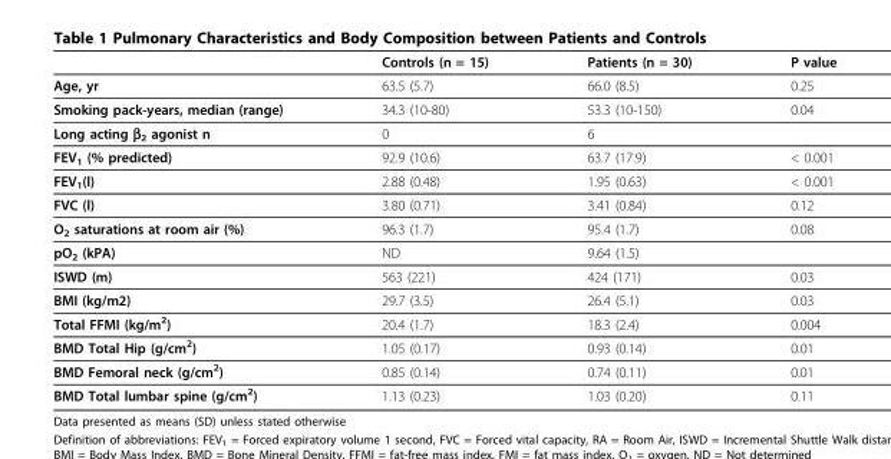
<table><thead><tr><td></td><td>Controls (n = 15)</td><td>Patients (n = 30)</td><td>P value</td></tr></thead><tbody><tr><td>Age, yr</td><td>63.5 (5.7)</td><td>66.0 (8.5)</td><td>0.25</td></tr><tr><td>Smoking pack-years, median (range)</td><td>34.3 (10-80)</td><td>53.3 (10-150)</td><td>0.04</td></tr><tr><td>Long acting β<sub>2</sub> agonist n</td><td>0</td><td>6</td><td></td></tr><tr><td>FEV<sub>1</sub> (% predicted)</td><td>92.9 (10.6)</td><td>63.7 (17.9)</td><td>&lt; 0.001</td></tr><tr><td>FEV<sub>1</sub>(l)</td><td>2.88 (0.48)</td><td>1.95 (0.63)</td><td>&lt; 0.001</td></tr><tr><td>FVC (l)</td><td>3.80 (0.71)</td><td>3.41 (0.84)</td><td>0.12</td></tr><tr><td>O<sub>2</sub> saturations at room air (%)</td><td>96.3 (1.7)</td><td>95.4 (1.7)</td><td>0.08</td></tr><tr><td>pO<sub>2</sub> (kPA)</td><td>ND</td><td>9.64 (1.5)</td><td></td></tr><tr><td>ISWD (m)</td><td>563 (221)</td><td>424 (171)</td><td>0.03</td></tr><tr><td>BMI (kg/m2)</td><td>29.7 (3.5)</td><td>26.4 (5.1)</td><td>0.03</td></tr><tr><td>Total FFMI (kg/m<sup>2</sup>)</td><td>20.4 (1.7)</td><td>18.3 (2.4)</td><td>0.004</td></tr><tr><td>BMD Total Hip (g/cm<sup>2</sup>)</td><td>1.05 (0.17)</td><td>0.93 (0.14)</td><td>0.01</td></tr><tr><td>BMD Femoral neck (g/cm<sup>2</sup>)</td><td>0.85 (0.14)</td><td>0.74 (0.11)</td><td>0.01</td></tr><tr><td>BMD Total lumbar spine (g/cm<sup>2</sup>)</td><td>1.13 (0.23)</td><td>1.03 (0.20)</td><td>0.11</td></tr></tbody></table>